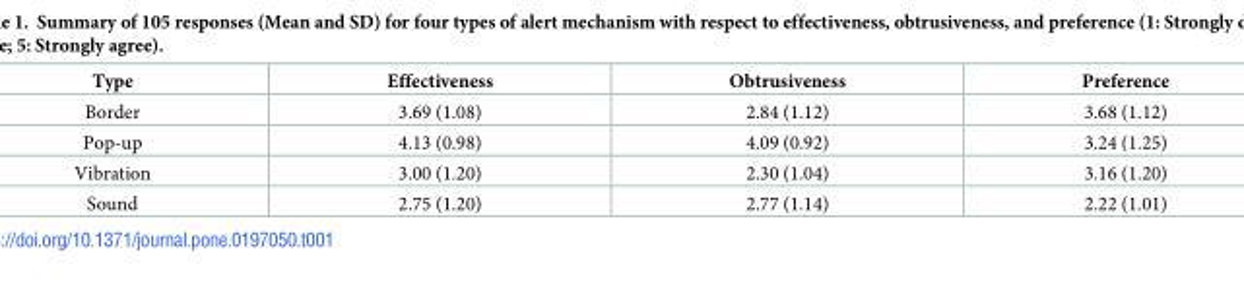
<table><thead><tr><td>Type</td><td>Effectiveness</td><td>Obtrusiveness</td><td>Preference</td></tr></thead><tbody><tr><td>Border</td><td>3.69 (1.08)</td><td>2.84 (1.12)</td><td>3.68 (1.12)</td></tr><tr><td>Pop-up</td><td>4.13 (0.98)</td><td>4.09 (0.92)</td><td>3.24 (1.25)</td></tr><tr><td>Vibration</td><td>3.00 (1.20)</td><td>2.30 (1.04)</td><td>3.16 (1.20)</td></tr><tr><td>Sound</td><td>2.75 (1.20)</td><td>2.77 (1.14)</td><td>2.22 (1.01)</td></tr></tbody></table>